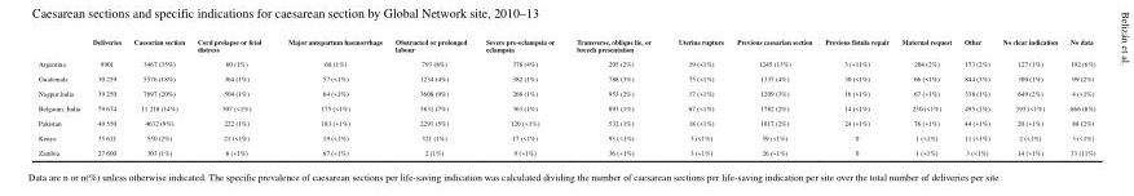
<table><thead><tr><td></td><td>Deliveries</td><td>Caesarian section</td><td>Cord prolapse or fetal distress</td><td>Major antepartum haemorrhage</td><td>Obstructed or prolonged labour</td><td>Severe pre-eclampsia or eclampsia</td><td>Transverse, oblique lie, or breech presentation</td><td>Uterine rupture</td><td>Previous caesarian section</td><td>Previous fistula repair</td><td>Maternal request</td><td>Other</td><td>No clear indication</td><td>No data</td></tr></thead><tbody><tr><td>Argentina</td><td>9901</td><td>3467 (35%)</td><td>60 (1%)</td><td>68 (1%)</td><td>793 (8%)</td><td>378 (4%)</td><td>205 (2%)</td><td>19 (&lt;1%)</td><td>1245 (13%)</td><td>3 (&lt;11%)</td><td>204 (2%)</td><td>173 (2%)</td><td>127 (1%)</td><td>192 (6%)</td></tr><tr><td>Guatemala</td><td>30 259</td><td>5576 (18%)</td><td>364 (1%)</td><td>57 (&lt;1%)</td><td>1234 (4%)</td><td>382 (1%)</td><td>788 (3%)</td><td>75 (&lt;1%)</td><td>1337 (4%)</td><td>30 (&lt;1%)</td><td>66 (&lt;1%)</td><td>844 (3%)</td><td>300 (1%)</td><td>99 (2%)</td></tr><tr><td>Nagpur,lndia</td><td>39 250</td><td>7697 (20%)</td><td>504 (1%)</td><td>64 (&lt;1%)</td><td>3608 (9%)</td><td>268 (1%)</td><td>953 (2%)</td><td>17 (&lt;1%)</td><td>1209 (3%)</td><td>16 (&lt;1%)</td><td>67 (&lt;1%)</td><td>338 (1%)</td><td>649 (2%)</td><td>4 (&lt;1%)</td></tr><tr><td>Belgaum, India</td><td>79 674</td><td>11 218 (14%)</td><td>307 (&lt;1%)</td><td>175 (&lt;1%)</td><td>5831 (7%)</td><td>363 (1%)</td><td>893 (1%)</td><td>67 (&lt;1%)</td><td>1782 (2%)</td><td>14 (&lt;1%)</td><td>230 (&lt;1%)</td><td>495 (1%)</td><td>195 (&lt;1%)</td><td>866 (8%)</td></tr><tr><td>Pakistan</td><td>49 550</td><td>4632 (9%)</td><td>222 (1%)</td><td>183 (&lt;1%)</td><td>2291 (5%)</td><td>120 (&lt;1%)</td><td>532 (1%)</td><td>18 (&lt;1%)</td><td>1017 (2%)</td><td>24 (&lt;1%)</td><td>76 (&lt;1%)</td><td>44 (&lt;1%)</td><td>20 (&lt;1%)</td><td>88 (2%)</td></tr><tr><td>Kenya</td><td>35 621</td><td>550 (2%)</td><td>21 (&lt;1%)</td><td>19 (&lt;1%)</td><td>321 (1%)</td><td>17 (&lt;1%)</td><td>93 (&lt;1%)</td><td>3 (&lt;1%)</td><td>59 (&lt;1%)</td><td>0</td><td>1 (&lt;1%)</td><td>11 (&lt;1%)</td><td>2 (&lt;1%)</td><td>3 (&lt;1%)</td></tr><tr><td>Zambia</td><td>27 600</td><td>303 (1%)</td><td>8 (&lt;1%)</td><td>67 (&lt;1%)</td><td>2 (1%)</td><td>9 (&lt;1%)</td><td>36 (&lt;1%)</td><td>3 (&lt;1%)</td><td>26 (&lt;1%)</td><td>0</td><td>1 (&lt;1%)</td><td>3 (&lt;1%)</td><td>14 (&lt;1%)</td><td>33 (11%)</td></tr></tbody></table>